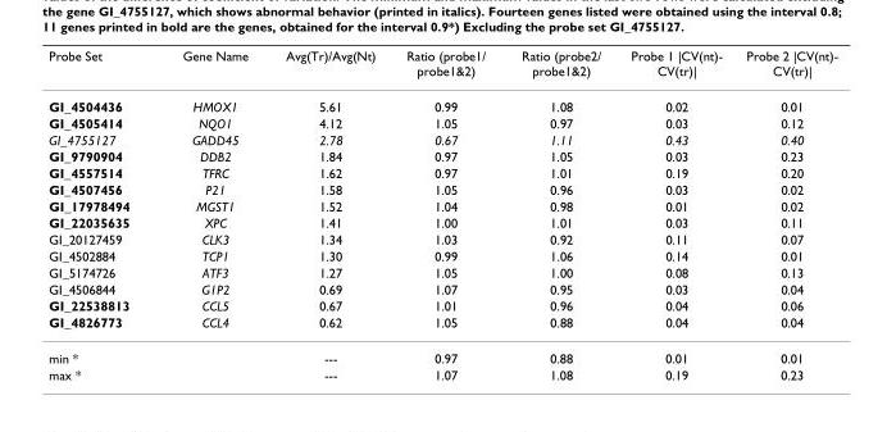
<table><thead><tr><td>Probe Set</td><td>Gene Name</td><td>Avg(Tr)/Avg(Nt)</td><td>Ratio (probe1/ probe1&amp;2)</td><td>Ratio (probe2/ probe1&amp;2)</td><td>Probe 1 |CV(nt)- CV(tr)|</td><td>Probe 2 |CV(nt)- CV(tr)|</td></tr></thead><tbody><tr><td>GI_4504436</td><td>HMOX1</td><td>5.61</td><td>0.99</td><td>1.08</td><td>0.02</td><td>0.01</td></tr><tr><td>GI_4505414</td><td>NQO1</td><td>4.12</td><td>1.05</td><td>0.97</td><td>0.03</td><td>0.12</td></tr><tr><td>GI_4755127</td><td>GADD45</td><td>2.78</td><td>0.67</td><td>1.11</td><td>0.43</td><td>0.40</td></tr><tr><td>GI_9790904</td><td>DDB2</td><td>1.84</td><td>0.97</td><td>1.05</td><td>0.03</td><td>0.23</td></tr><tr><td>GI_4557514</td><td>TFRC</td><td>1.62</td><td>0.97</td><td>1.01</td><td>0.19</td><td>0.20</td></tr><tr><td>GI_4507456</td><td>P21</td><td>1.58</td><td>1.05</td><td>0.96</td><td>0.03</td><td>0.02</td></tr><tr><td>GI_17978494</td><td>MGST1</td><td>1.52</td><td>1.04</td><td>0.98</td><td>0.01</td><td>0.02</td></tr><tr><td>GI_22035635</td><td>XPC</td><td>1.41</td><td>1.00</td><td>1.01</td><td>0.03</td><td>0.11</td></tr><tr><td>GI_20127459</td><td>CLK3</td><td>1.34</td><td>1.03</td><td>0.92</td><td>0.11</td><td>0.07</td></tr><tr><td>GI_4502884</td><td>TCP1</td><td>1.30</td><td>0.99</td><td>1.06</td><td>0.14</td><td>0.01</td></tr><tr><td>GI_5174726</td><td>ATF3</td><td>1.27</td><td>1.05</td><td>1.00</td><td>0.08</td><td>0.13</td></tr><tr><td>GI_4506844</td><td>G1P2</td><td>0.69</td><td>1.07</td><td>0.95</td><td>0.03</td><td>0.04</td></tr><tr><td>GI_22538813</td><td>CCL5</td><td>0.67</td><td>1.01</td><td>0.96</td><td>0.04</td><td>0.06</td></tr><tr><td>GI_4826773</td><td>CCL4</td><td>0.62</td><td>1.05</td><td>0.88</td><td>0.04</td><td>0.04</td></tr><tr><td>min *</td><td></td><td>---</td><td>0.97</td><td>0.88</td><td>0.01</td><td>0.01</td></tr><tr><td>max *</td><td></td><td>---</td><td>1.07</td><td>1.08</td><td>0.19</td><td>0.23</td></tr></tbody></table>